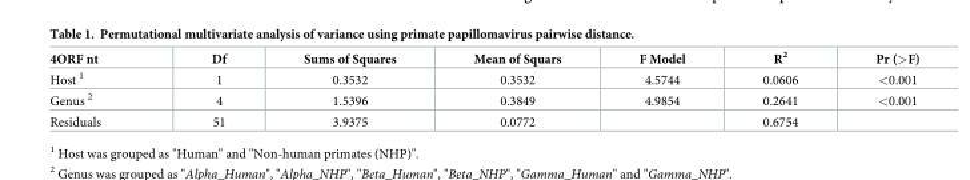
<table><thead><tr><td>4ORF nt</td><td>Df</td><td>Sums of Squares</td><td>Mean of Squars</td><td>F Model</td><td>R<sup>2</sup></td><td>Pr (&gt;F)</td></tr></thead><tbody><tr><td>Host <sup>1</sup></td><td>1</td><td>0.3532</td><td>0.3532</td><td>4.5744</td><td>0.0606</td><td>&lt;0.001</td></tr><tr><td>Genus <sup>2</sup></td><td>4</td><td>1.5396</td><td>0.3849</td><td>4.9854</td><td>0.2641</td><td>&lt;0.001</td></tr><tr><td>Residuals</td><td>51</td><td>3.9375</td><td>0.0772</td><td></td><td>0.6754</td><td></td></tr></tbody></table>